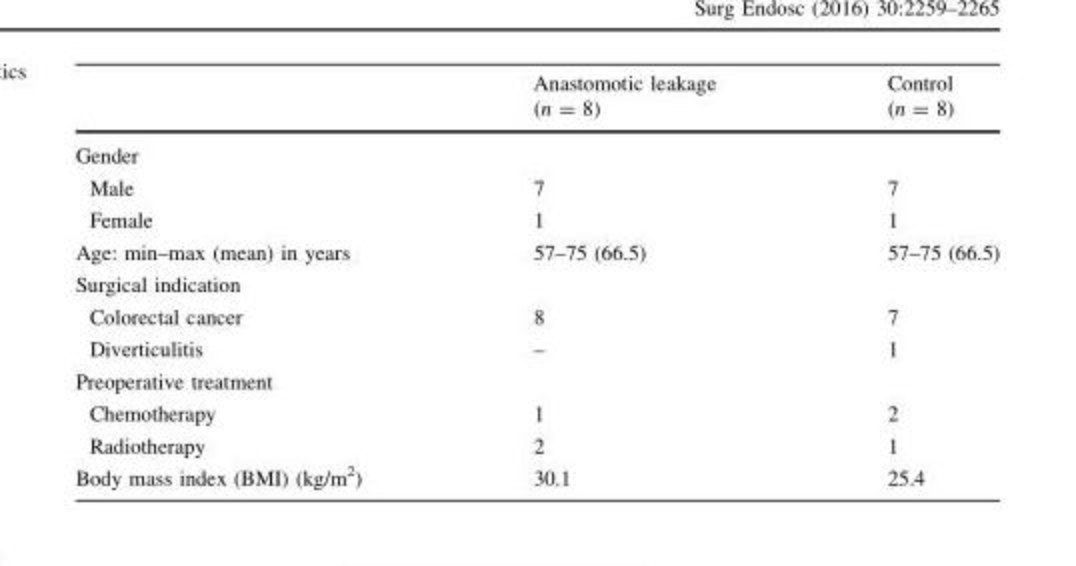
<table><thead><tr><td></td><td>Anastomotic leakage (n = 8)</td><td>Control (n = 8)</td></tr></thead><tbody><tr><td colspan="3">Gender</td></tr><tr><td>Male</td><td>7</td><td>7</td></tr><tr><td>Female</td><td>1</td><td>1</td></tr><tr><td>Age: min–max (mean) in years</td><td>57–75 (66.5)</td><td>57–75 (66.5)</td></tr><tr><td colspan="3">Surgical indication</td></tr><tr><td>Colorectal cancer</td><td>8</td><td>7</td></tr><tr><td>Diverticulitis</td><td>–</td><td>1</td></tr><tr><td colspan="3">Preoperative treatment</td></tr><tr><td>Chemotherapy</td><td>1</td><td>2</td></tr><tr><td>Radiotherapy</td><td>2</td><td>1</td></tr><tr><td>Body mass index (BMI) (kg/m<sup>2</sup>)</td><td>30.1</td><td>25.4</td></tr></tbody></table>